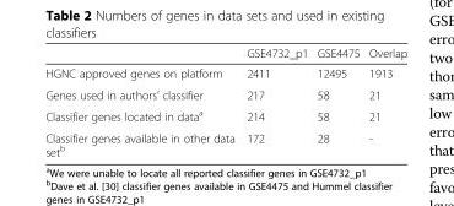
<table><thead><tr><td></td><td>GSE4732_p1</td><td>GSE4475</td><td>Overlap</td></tr></thead><tbody><tr><td>HGNC approved genes on platform</td><td>2411</td><td>12495</td><td>1913</td></tr><tr><td>Genes used in authors’ classifier</td><td>217</td><td>58</td><td>21</td></tr><tr><td>Classifier genes located in data<sup>a</sup></td><td>214</td><td>58</td><td>21</td></tr><tr><td>Classifier genes available in other data set<sup>b</sup></td><td>172</td><td>28</td><td>-</td></tr></tbody></table>